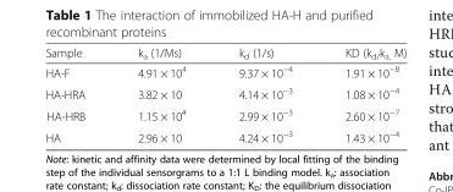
<table><thead><tr><td>Sample</td><td>k<sub>a</sub> (1/Ms)</td><td>k<sub>d</sub> (1/s)</td><td>KD (k<sub>d/</sub>k<sub>a,</sub> M)</td></tr></thead><tbody><tr><td>HA-F</td><td>4.91 × 10<sup>4</sup></td><td>9.37 × 10<sup>−4</sup></td><td>1.91 × 10<sup>−8</sup></td></tr><tr><td>HA-HRA</td><td>3.82 × 10</td><td>4.14 × 10<sup>−3</sup></td><td>1.08 × 10<sup>−4</sup></td></tr><tr><td>HA-HRB</td><td>1.15 × 10<sup>4</sup></td><td>2.99 × 10<sup>−3</sup></td><td>2.60 × 10<sup>−7</sup></td></tr><tr><td>HA</td><td>2.96 × 10</td><td>4.24 × 10<sup>−3</sup></td><td>1.43 × 10<sup>−4</sup></td></tr></tbody></table>